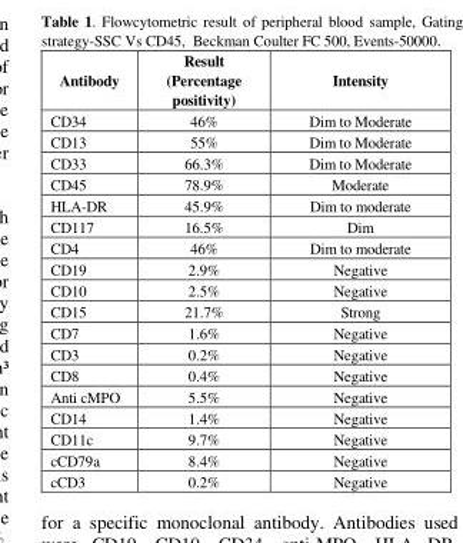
<table><thead><tr><td>Antibody</td><td>Result (Percentage positivity)</td><td>Intensity</td></tr></thead><tbody><tr><td>CD34</td><td>46%</td><td>Dim to Moderate</td></tr><tr><td>CD13</td><td>55%</td><td>Dim to Moderate</td></tr><tr><td>CD33</td><td>66.3%</td><td>Dim to Moderate</td></tr><tr><td>CD45</td><td>78.9%</td><td>Moderate</td></tr><tr><td>HLA-DR</td><td>45.9%</td><td>Dim to moderate</td></tr><tr><td>CD117</td><td>16.5%</td><td>Dim</td></tr><tr><td>CD4</td><td>46%</td><td>Dim to moderate</td></tr><tr><td>CD19</td><td>2.9%</td><td>Negative</td></tr><tr><td>CD10</td><td>2.5%</td><td>Negative</td></tr><tr><td>CD15</td><td>21.7%</td><td>Strong</td></tr><tr><td>CD7</td><td>1.6%</td><td>Negative</td></tr><tr><td>CD3</td><td>0.2%</td><td>Negative</td></tr><tr><td>CD8</td><td>0.4%</td><td>Negative</td></tr><tr><td>Anti cMPO</td><td>5.5%</td><td>Negative</td></tr><tr><td>CD14</td><td>1.4%</td><td>Negative</td></tr><tr><td>CD11c</td><td>9.7%</td><td>Negative</td></tr><tr><td>cCD79a</td><td>8.4%</td><td>Negative</td></tr><tr><td>cCD3</td><td>0.2%</td><td>Negative</td></tr></tbody></table>